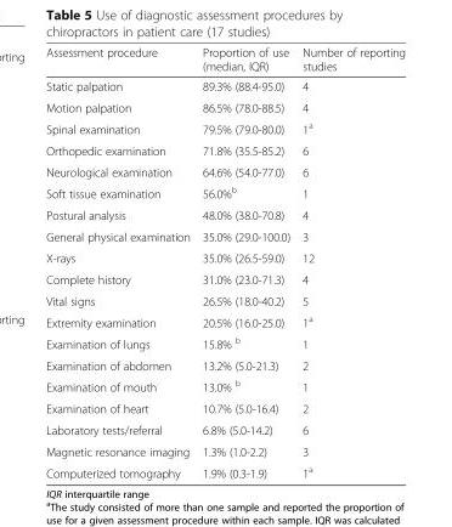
<table><thead><tr><td>Assessment procedure</td><td>Proportion of use (median, IQR)</td><td>Number of reporting studies</td></tr></thead><tbody><tr><td>Static palpation</td><td>89.3% (88.4-95.0)</td><td>4</td></tr><tr><td>Motion palpation</td><td>86.5% (78.0-88.5)</td><td>4</td></tr><tr><td>Spinal examination</td><td>79.5% (79.0-80.0)</td><td>1<sup>a</sup></td></tr><tr><td>Orthopedic examination</td><td>71.8% (35.5-85.2)</td><td>6</td></tr><tr><td>Neurological examination</td><td>64.6% (54.0-77.0)</td><td>6</td></tr><tr><td>Soft tissue examination</td><td>56.0%<sup>b</sup></td><td>1</td></tr><tr><td>Postural analysis</td><td>48.0% (38.0-70.8)</td><td>4</td></tr><tr><td>General physical examination</td><td>35.0% (29.0-100.0)</td><td>3</td></tr><tr><td>X-rays</td><td>35.0% (26.5-59.0)</td><td>12</td></tr><tr><td>Complete history</td><td>31.0% (23.0-71.3)</td><td>4</td></tr><tr><td>Vital signs</td><td>26.5% (18.0-40.2)</td><td>5</td></tr><tr><td>Extremity examination</td><td>20.5% (16.0-25.0)</td><td>1<sup>a</sup></td></tr><tr><td>Examination of lungs</td><td>15.8% <sup>b</sup></td><td>1</td></tr><tr><td>Examination of abdomen</td><td>13.2% (5.0-21.3)</td><td>2</td></tr><tr><td>Examination of mouth</td><td>13.0% <sup>b</sup></td><td>1</td></tr><tr><td>Examination of heart</td><td>10.7% (5.0-16.4)</td><td>2</td></tr><tr><td>Laboratory tests/referral</td><td>6.8% (5.0-14.2)</td><td>6</td></tr><tr><td>Magnetic resonance imaging</td><td>1.3% (1.0-2.2)</td><td>3</td></tr><tr><td>Computerized tomography</td><td>1.9% (0.3-1.9)</td><td>1<sup>a</sup></td></tr></tbody></table>